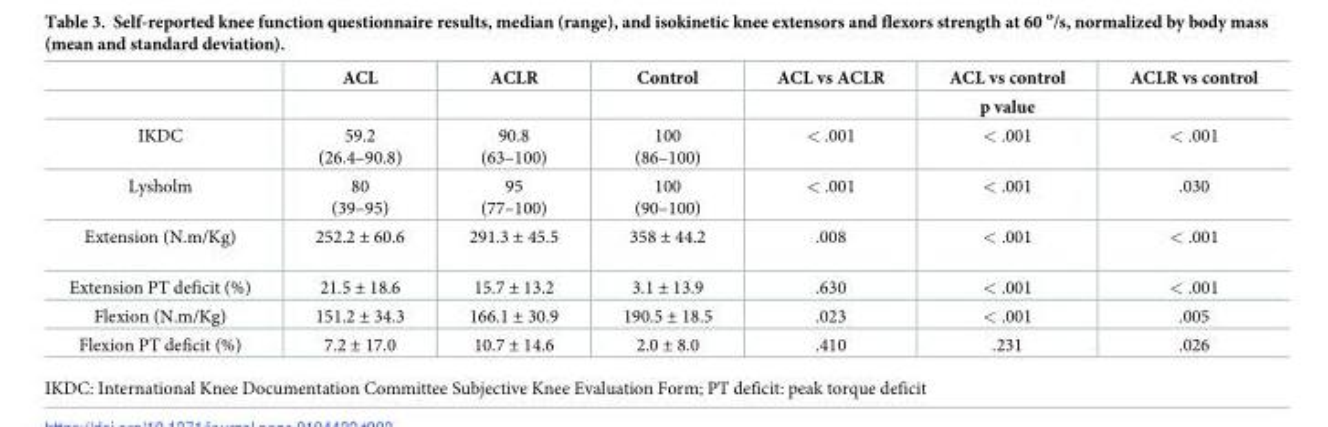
<table><thead><tr><td rowspan="2"></td><td rowspan="2">ACL</td><td rowspan="2">ACLR</td><td rowspan="2">Control</td><td rowspan="2">ACL vs ACLR</td><td rowspan="2">ACL vs control p value</td><td rowspan="2">ACLR vs control</td></tr><tr></tr></thead><tbody><tr><td>IKDC</td><td>59.2 (26.4–90.8)</td><td>90.8 (63–100)</td><td>100 (86–100)</td><td>&lt; .001</td><td>&lt; .001</td><td>&lt; .001</td></tr><tr><td>Lysholm</td><td>80 (39–95)</td><td>95 (77–100)</td><td>100 (90–100)</td><td>&lt; .001</td><td>&lt; .001</td><td>.030</td></tr><tr><td>Extension (N.m/Kg)</td><td>252.2 ± 60.6</td><td>291.3 ± 45.5</td><td>358 ± 44.2</td><td>.008</td><td>&lt; .001</td><td>&lt; .001</td></tr><tr><td>Extension PT deficit (%)</td><td>21.5 ± 18.6</td><td>15.7 ± 13.2</td><td>3.1 ± 13.9</td><td>.630</td><td>&lt; .001</td><td>&lt; .001</td></tr><tr><td>Flexion (N.m/Kg)</td><td>151.2 ± 34.3</td><td>166.1 ± 30.9</td><td>190.5 ± 18.5</td><td>.023</td><td>&lt; .001</td><td>.005</td></tr><tr><td>Flexion PT deficit (%)</td><td>7.2 ± 17.0</td><td>10.7 ± 14.6</td><td>2.0 ± 8.0</td><td>.410</td><td>.231</td><td>.026</td></tr></tbody></table>